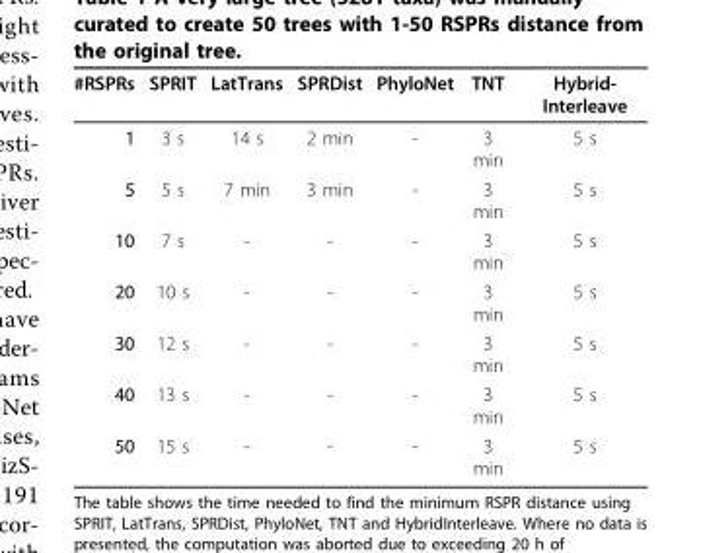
<table><thead><tr><td>#RSPRs</td><td>SPRIT</td><td>LatTrans</td><td>SPRDist</td><td>PhyloNet</td><td>TNT</td><td>Hybrid- Interleave</td></tr></thead><tbody><tr><td>1</td><td>3 s</td><td>14 s</td><td>2 min</td><td>-</td><td>3 min</td><td>5 s</td></tr><tr><td>5</td><td>5 s</td><td>7 min</td><td>3 min</td><td>-</td><td>3 min</td><td>5 s</td></tr><tr><td>10</td><td>7 s</td><td>-</td><td>-</td><td>-</td><td>3 min</td><td>5 s</td></tr><tr><td>20</td><td>10 s</td><td>-</td><td>-</td><td>-</td><td>3 min</td><td>5 s</td></tr><tr><td>30</td><td>12 s</td><td>-</td><td>-</td><td>-</td><td>3 min</td><td>5 s</td></tr><tr><td>40</td><td>13 s</td><td>-</td><td>-</td><td>-</td><td>3 min</td><td>5 s</td></tr><tr><td>50</td><td>15 s</td><td>-</td><td>-</td><td>-</td><td>3 min</td><td>5 s</td></tr></tbody></table>